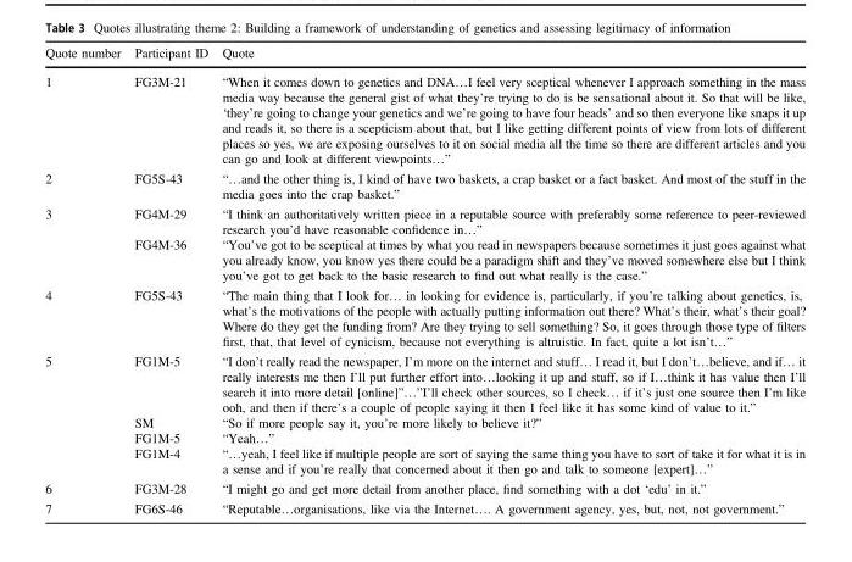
<table><thead><tr><td>Quote number</td><td>Participant ID</td><td>Quote</td></tr></thead><tbody><tr><td>1</td><td>FG3M-21</td><td>“When it comes down to genetics and DNA…I feel very sceptical whenever I approach something in the mass media way because the general gist of what they’re trying to do is be sensational about it. So that will be like, ‘they’re going to change your genetics and we’re going to have four heads’ and so then everyone like snaps it up and reads it, so there is a scepticism about that, but I like getting different points of view from lots of different places so yes, we are exposing ourselves to it on social media all the time so there are different articles and you can go and look at different viewpoints…”</td></tr><tr><td>2</td><td>FG5S-43</td><td>“…and the other thing is, I kind of have two baskets, a crap basket or a fact basket. And most of the stuff in the media goes into the crap basket.”</td></tr><tr><td>3</td><td>FG4M-29 FG4M-36</td><td>“I think an authoritatively written piece in a reputable source with preferably some reference to peer-reviewed research you’d have reasonable confidence in…” “You’ve got to be sceptical at times by what you read in newspapers because sometimes it just goes against what you already know, you know yes there could be a paradigm shift and they’ve moved somewhere else but I think you’ve got to get back to the basic research to find out what really is the case.”</td></tr><tr><td>4</td><td>FG5S-43</td><td>“The main thing that I look for… in looking for evidence is, particularly, if you’re talking about genetics, is, what’s the motivations of the people with actually putting information out there? What’s their, what’s their goal? Where do they get the funding from? Are they trying to sell something? So, it goes through those type of filters first, that, that level of cynicism, because not everything is altruistic. In fact, quite a lot isn’t…”</td></tr><tr><td>5</td><td>FG1M-5 SM FG1M-5 FG1M-4</td><td>“I don’t really read the newspaper, I’m more on the internet and stuff… I read it, but I don’t…believe, and if… it really interests me then I’ll put further effort into…looking it up and stuff, so if I…think it has value then I’ll search it into more detail [online]”…”I’ll check other sources, so I check… if it’s just one source then I’m like ooh, and then if there’s a couple of people saying it then I feel like it has some kind of value to it.” “So if more people say it, you’re more likely to believe it?” “Yeah…” “…yeah, I feel like if multiple people are sort of saying the same thing you have to sort of take it for what it is in a sense and if you’re really that concerned about it then go and talk to someone [expert]…”</td></tr><tr><td>6</td><td>FG3M-28</td><td>“I might go and get more detail from another place, find something with a dot ‘edu’ in it.”</td></tr><tr><td>7</td><td>FG6S-46</td><td>“Reputable…organisations, like via the Internet…. A government agency, yes, but, not, not government.”</td></tr></tbody></table>